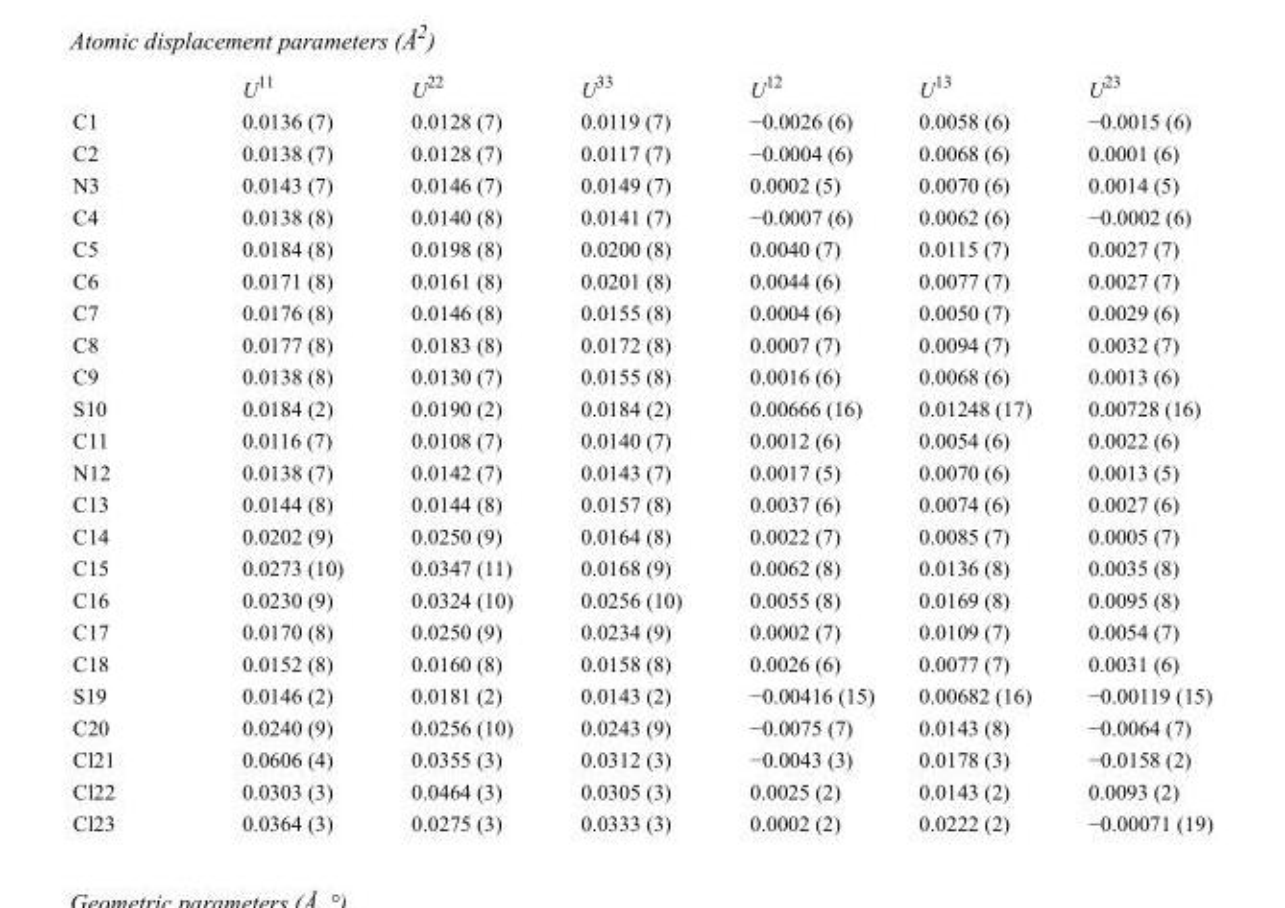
<table><thead><tr><td></td><td>U<sup>11</sup></td><td>U<sup>22</sup></td><td>U<sup>33</sup></td><td>U<sup>12</sup></td><td>U<sup>13</sup></td><td>U<sup>23</sup></td></tr></thead><tbody><tr><td>C1</td><td>0.0136 (7)</td><td>0.0128 (7)</td><td>0.0119 (7)</td><td>−0.0026 (6)</td><td>0.0058 (6)</td><td>−0.0015 (6)</td></tr><tr><td>C2</td><td>0.0138 (7)</td><td>0.0128 (7)</td><td>0.0117 (7)</td><td>−0.0004 (6)</td><td>0.0068 (6)</td><td>0.0001 (6)</td></tr><tr><td>N3</td><td>0.0143 (7)</td><td>0.0146 (7)</td><td>0.0149 (7)</td><td>0.0002 (5)</td><td>0.0070 (6)</td><td>0.0014 (5)</td></tr><tr><td>C4</td><td>0.0138 (8)</td><td>0.0140 (8)</td><td>0.0141 (7)</td><td>−0.0007 (6)</td><td>0.0062 (6)</td><td>−0.0002 (6)</td></tr><tr><td>C5</td><td>0.0184 (8)</td><td>0.0198 (8)</td><td>0.0200 (8)</td><td>0.0040 (7)</td><td>0.0115 (7)</td><td>0.0027 (7)</td></tr><tr><td>C6</td><td>0.0171 (8)</td><td>0.0161 (8)</td><td>0.0201 (8)</td><td>0.0044 (6)</td><td>0.0077 (7)</td><td>0.0027 (7)</td></tr><tr><td>C7</td><td>0.0176 (8)</td><td>0.0146 (8)</td><td>0.0155 (8)</td><td>0.0004 (6)</td><td>0.0050 (7)</td><td>0.0029 (6)</td></tr><tr><td>C8</td><td>0.0177 (8)</td><td>0.0183 (8)</td><td>0.0172 (8)</td><td>0.0007 (7)</td><td>0.0094 (7)</td><td>0.0032 (7)</td></tr><tr><td>C9</td><td>0.0138 (8)</td><td>0.0130 (7)</td><td>0.0155 (8)</td><td>0.0016 (6)</td><td>0.0068 (6)</td><td>0.0013 (6)</td></tr><tr><td>S10</td><td>0.0184 (2)</td><td>0.0190 (2)</td><td>0.0184 (2)</td><td>0.00666 (16)</td><td>0.01248 (17)</td><td>0.00728 (16)</td></tr><tr><td>C11</td><td>0.0116 (7)</td><td>0.0108 (7)</td><td>0.0140 (7)</td><td>0.0012 (6)</td><td>0.0054 (6)</td><td>0.0022 (6)</td></tr><tr><td>N12</td><td>0.0138 (7)</td><td>0.0142 (7)</td><td>0.0143 (7)</td><td>0.0017 (5)</td><td>0.0070 (6)</td><td>0.0013 (5)</td></tr><tr><td>C13</td><td>0.0144 (8)</td><td>0.0144 (8)</td><td>0.0157 (8)</td><td>0.0037 (6)</td><td>0.0074 (6)</td><td>0.0027 (6)</td></tr><tr><td>C14</td><td>0.0202 (9)</td><td>0.0250 (9)</td><td>0.0164 (8)</td><td>0.0022 (7)</td><td>0.0085 (7)</td><td>0.0005 (7)</td></tr><tr><td>C15</td><td>0.0273 (10)</td><td>0.0347 (11)</td><td>0.0168 (9)</td><td>0.0062 (8)</td><td>0.0136 (8)</td><td>0.0035 (8)</td></tr><tr><td>C16</td><td>0.0230 (9)</td><td>0.0324 (10)</td><td>0.0256 (10)</td><td>0.0055 (8)</td><td>0.0169 (8)</td><td>0.0095 (8)</td></tr><tr><td>C17</td><td>0.0170 (8)</td><td>0.0250 (9)</td><td>0.0234 (9)</td><td>0.0002 (7)</td><td>0.0109 (7)</td><td>0.0054 (7)</td></tr><tr><td>C18</td><td>0.0152 (8)</td><td>0.0160 (8)</td><td>0.0158 (8)</td><td>0.0026 (6)</td><td>0.0077 (7)</td><td>0.0031 (6)</td></tr><tr><td>S19</td><td>0.0146 (2)</td><td>0.0181 (2)</td><td>0.0143 (2)</td><td>−0.00416 (15)</td><td>0.00682 (16)</td><td>−0.00119 (15)</td></tr><tr><td>C20</td><td>0.0240 (9)</td><td>0.0256 (10)</td><td>0.0243 (9)</td><td>−0.0075 (7)</td><td>0.0143 (8)</td><td>−0.0064 (7)</td></tr><tr><td>Cl21</td><td>0.0606 (4)</td><td>0.0355 (3)</td><td>0.0312 (3)</td><td>−0.0043 (3)</td><td>0.0178 (3)</td><td>−0.0158 (2)</td></tr><tr><td>Cl22</td><td>0.0303 (3)</td><td>0.0464 (3)</td><td>0.0305 (3)</td><td>0.0025 (2)</td><td>0.0143 (2)</td><td>0.0093 (2)</td></tr><tr><td>Cl23</td><td>0.0364 (3)</td><td>0.0275 (3)</td><td>0.0333 (3)</td><td>0.0002 (2)</td><td>0.0222 (2)</td><td>−0.00071 (19)</td></tr></tbody></table>